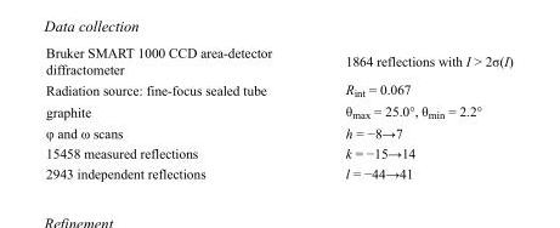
<table><tbody><tr><td>Bruker SMART 1000 CCD area-detector diffractometer</td><td>1864 reflections with I &gt; 2σ(I)</td></tr><tr><td>Radiation source: fine-focus sealed tube</td><td>R<sub>int</sub> = 0.067</td></tr><tr><td>graphite</td><td>θ<sub>max</sub> = 25.0°, θ<sub>min</sub> = 2.2°</td></tr><tr><td>φ and ω scans</td><td>h = −8→7</td></tr><tr><td>15458 measured reflections</td><td>k = −15→14</td></tr><tr><td>2943 independent reflections</td><td>l = −44→41</td></tr></tbody></table>